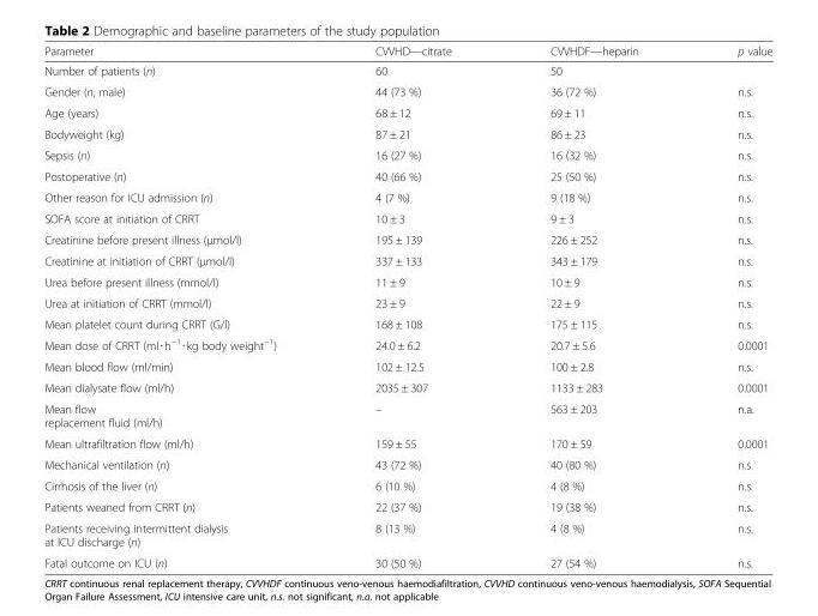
<table><thead><tr><td>Parameter</td><td>CVVHD—citrate</td><td>CVVHDF—heparin</td><td>p value</td></tr></thead><tbody><tr><td>Number of patients (n)</td><td>60</td><td>50</td><td></td></tr><tr><td>Gender (n, male)</td><td>44 (73 %)</td><td>36 (72 %)</td><td>n.s.</td></tr><tr><td>Age (years)</td><td>68 ± 12</td><td>69 ± 11</td><td>n.s.</td></tr><tr><td>Bodyweight (kg)</td><td>87 ± 21</td><td>86 ± 23</td><td>n.s.</td></tr><tr><td>Sepsis (n)</td><td>16 (27 %)</td><td>16 (32 %)</td><td>n.s.</td></tr><tr><td>Postoperative (n)</td><td>40 (66 %)</td><td>25 (50 %)</td><td>n.s.</td></tr><tr><td>Other reason for ICU admission (n)</td><td>4 (7 %)</td><td>9 (18 %)</td><td>n.s.</td></tr><tr><td>SOFA score at initiation of CRRT</td><td>10 ± 3</td><td>9 ± 3</td><td>n.s.</td></tr><tr><td>Creatinine before present illness (μmol/l)</td><td>195 ± 139</td><td>226 ± 252</td><td>n.s.</td></tr><tr><td>Creatinine at initiation of CRRT (μmol/l)</td><td>337 ± 133</td><td>343 ± 179</td><td>n.s.</td></tr><tr><td>Urea before present illness (mmol/l)</td><td>11 ± 9</td><td>10 ± 9</td><td>n.s.</td></tr><tr><td>Urea at initiation of CRRT (mmol/l)</td><td>23 ± 9</td><td>22 ± 9</td><td>n.s.</td></tr><tr><td>Mean platelet count during CRRT (G/l)</td><td>168 ± 108</td><td>175 ± 115</td><td>n.s.</td></tr><tr><td>Mean dose of CRRT (ml∙h<sup>−1</sup>∙kg body weight<sup>−1</sup>)</td><td>24.0 ± 6.2</td><td>20.7 ± 5.6</td><td>0.0001</td></tr><tr><td>Mean blood flow (ml/min)</td><td>102 ± 12.5</td><td>100 ± 2.8</td><td>n.s.</td></tr><tr><td>Mean dialysate flow (ml/h)</td><td>2035 ± 307</td><td>1133 ± 283</td><td>0.0001</td></tr><tr><td>Mean flow replacement fluid (ml/h)</td><td>–</td><td>563 ± 203</td><td>n.a.</td></tr><tr><td>Mean ultrafiltration flow (ml/h)</td><td>159 ± 55</td><td>170 ± 59</td><td>0.0001</td></tr><tr><td>Mechanical ventilation (n)</td><td>43 (72 %)</td><td>40 (80 %)</td><td>n.s.</td></tr><tr><td>Cirrhosis of the liver (n)</td><td>6 (10 %)</td><td>4 (8 %)</td><td>n.s.</td></tr><tr><td>Patients weaned from CRRT (n)</td><td>22 (37 %)</td><td>19 (38 %)</td><td>n.s.</td></tr><tr><td>Patients receiving intermittent dialysis at ICU discharge (n)</td><td>8 (13 %)</td><td>4 (8 %)</td><td>n.s.</td></tr><tr><td>Fatal outcome on ICU (n)</td><td>30 (50 %)</td><td>27 (54 %)</td><td>n.s.</td></tr></tbody></table>